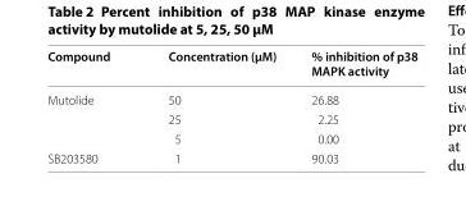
<table><thead><tr><td>Compound</td><td>Concentration (µM)</td><td>% inhibition of p38 MAPK activity</td></tr></thead><tbody><tr><td rowspan="3">Mutolide</td><td>50</td><td>26.88</td></tr><tr><td>25</td><td>2.25</td></tr><tr><td>5</td><td>0.00</td></tr><tr><td>SB203580</td><td>1</td><td>90.03</td></tr></tbody></table>